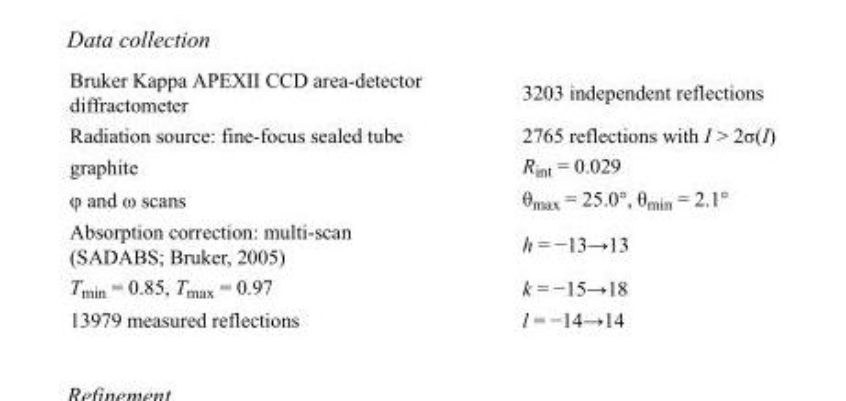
<table><tbody><tr><td>Bruker Kappa APEXII CCD area-detector diffractometer</td><td>3203 independent reflections</td></tr><tr><td>Radiation source: fine-focus sealed tube</td><td>2765 reflections with I &gt; 2σ(I)</td></tr><tr><td>graphite</td><td>R<sub>int</sub> = 0.029</td></tr><tr><td>φ and ω scans</td><td>θ<sub>max</sub> = 25.0°, θ<sub>min</sub> = 2.1°</td></tr><tr><td>Absorption correction: multi-scan (SADABS; Bruker, 2005)</td><td>h = −13→13</td></tr><tr><td>T<sub>min</sub> = 0.85, T<sub>max</sub> = 0.97</td><td>k = −15→18</td></tr><tr><td>13979 measured reflections</td><td>l = −14→14</td></tr></tbody></table>